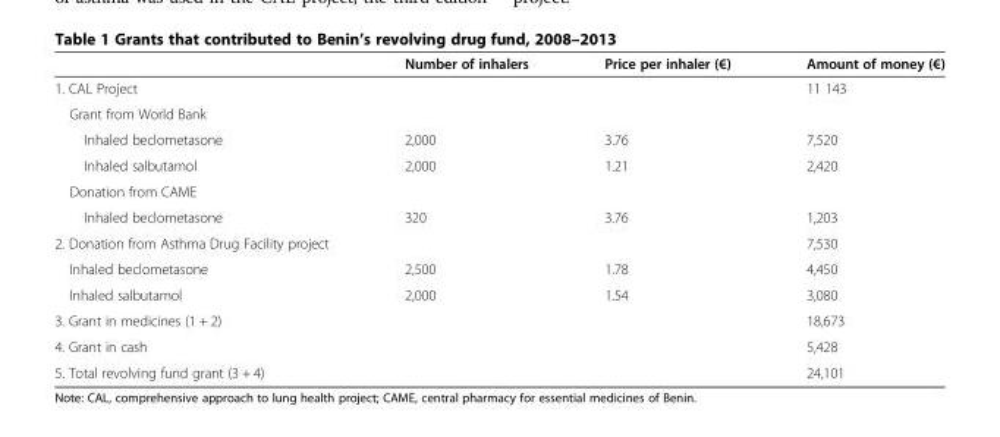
<table><thead><tr><td></td><td>Number of inhalers</td><td>Price per inhaler (€)</td><td>Amount of money (€)</td></tr></thead><tbody><tr><td>1. CAL Project</td><td></td><td></td><td>11 143</td></tr><tr><td colspan="4">Grant from World Bank</td></tr><tr><td>Inhaled beclometasone</td><td>2,000</td><td>3.76</td><td>7,520</td></tr><tr><td>Inhaled salbutamol</td><td>2,000</td><td>1.21</td><td>2,420</td></tr><tr><td colspan="4">Donation from CAME</td></tr><tr><td>Inhaled beclometasone</td><td>320</td><td>3.76</td><td>1,203</td></tr><tr><td>2. Donation from Asthma Drug Facility project</td><td></td><td></td><td>7,530</td></tr><tr><td>Inhaled beclometasone</td><td>2,500</td><td>1.78</td><td>4,450</td></tr><tr><td>Inhaled salbutamol</td><td>2,000</td><td>1.54</td><td>3,080</td></tr><tr><td>3. Grant in medicines (1 + 2)</td><td></td><td></td><td>18,673</td></tr><tr><td>4. Grant in cash</td><td></td><td></td><td>5,428</td></tr><tr><td>5. Total revolving fund grant (3 + 4)</td><td></td><td></td><td>24,101</td></tr></tbody></table>